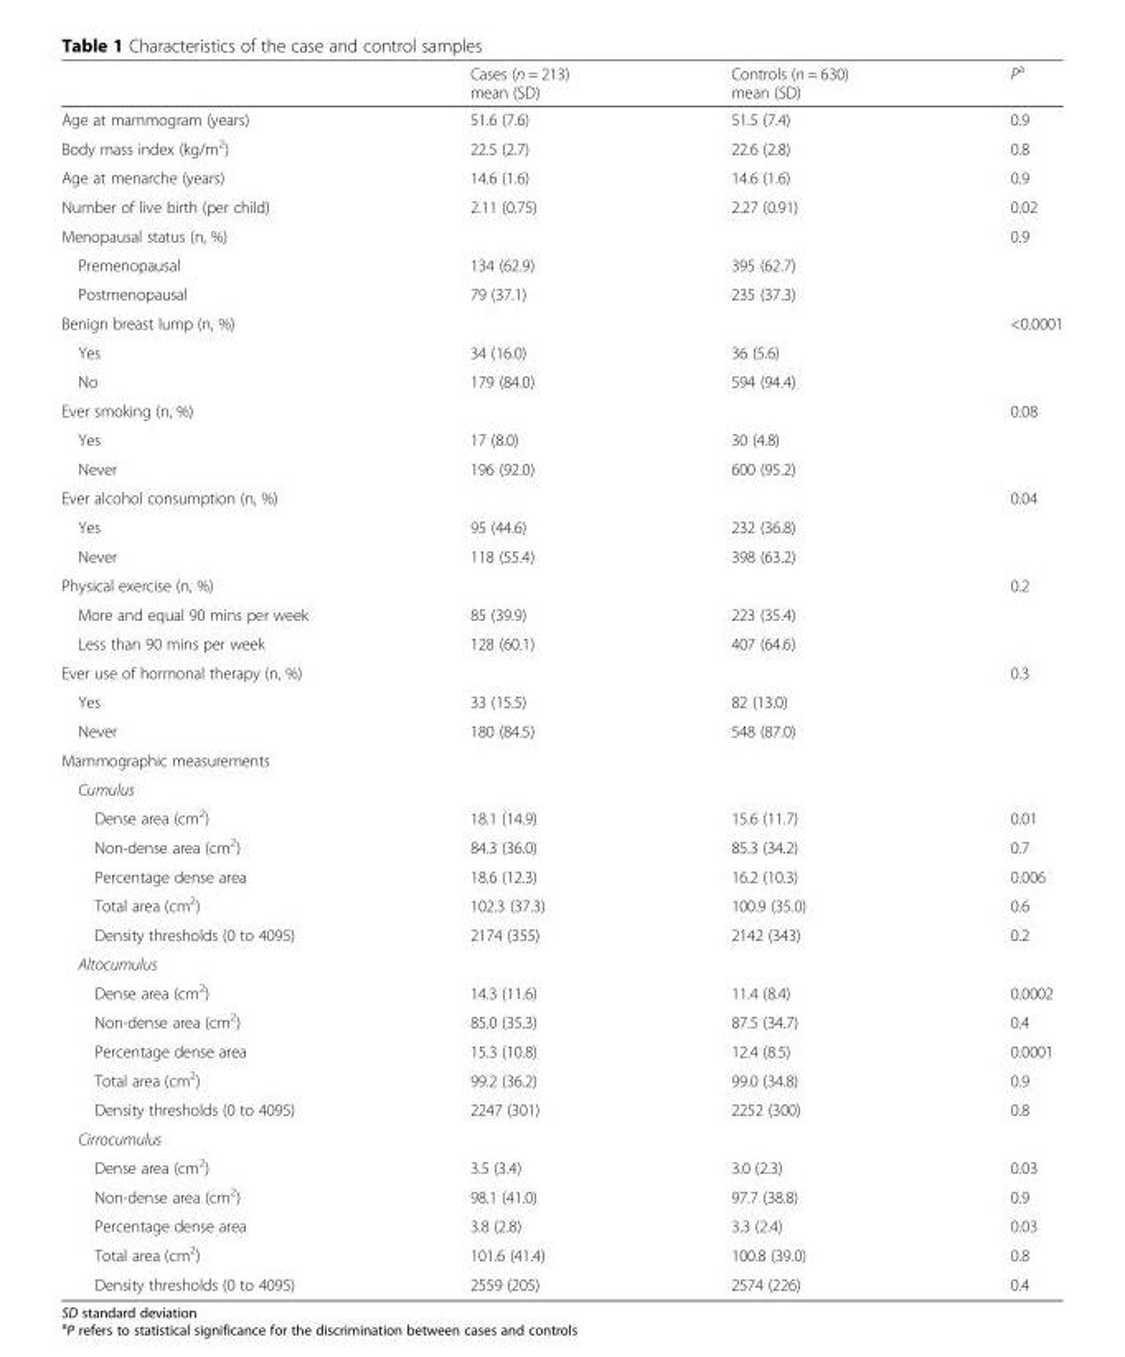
<table><thead><tr><td></td><td>Cases (n = 213) mean (SD)</td><td>Controls (n = 630) mean (SD)</td><td>P<sup>a</sup></td></tr></thead><tbody><tr><td>Age at mammogram (years)</td><td>51.6 (7.6)</td><td>51.5 (7.4)</td><td>0.9</td></tr><tr><td>Body mass index (kg/m<sup>2</sup>)</td><td>22.5 (2.7)</td><td>22.6 (2.8)</td><td>0.8</td></tr><tr><td>Age at menarche (years)</td><td>14.6 (1.6)</td><td>14.6 (1.6)</td><td>0.9</td></tr><tr><td>Number of live birth (per child)</td><td>2.11 (0.75)</td><td>2.27 (0.91)</td><td>0.02</td></tr><tr><td>Menopausal status (n, %)</td><td></td><td></td><td>0.9</td></tr><tr><td>Premenopausal</td><td>134 (62.9)</td><td>395 (62.7)</td><td></td></tr><tr><td>Postmenopausal</td><td>79 (37.1)</td><td>235 (37.3)</td><td></td></tr><tr><td>Benign breast lump (n, %)</td><td></td><td></td><td>&lt;0.0001</td></tr><tr><td>Yes</td><td>34 (16.0)</td><td>36 (5.6)</td><td></td></tr><tr><td>No</td><td>179 (84.0)</td><td>594 (94.4)</td><td></td></tr><tr><td>Ever smoking (n, %)</td><td></td><td></td><td>0.08</td></tr><tr><td>Yes</td><td>17 (8.0)</td><td>30 (4.8)</td><td></td></tr><tr><td>Never</td><td>196 (92.0)</td><td>600 (95.2)</td><td></td></tr><tr><td>Ever alcohol consumption (n, %)</td><td></td><td></td><td>0.04</td></tr><tr><td>Yes</td><td>95 (44.6)</td><td>232 (36.8)</td><td></td></tr><tr><td>Never</td><td>118 (55.4)</td><td>398 (63.2)</td><td></td></tr><tr><td>Physical exercise (n, %)</td><td></td><td></td><td>0.2</td></tr><tr><td>More and equal 90 mins per week</td><td>85 (39.9)</td><td>223 (35.4)</td><td></td></tr><tr><td>Less than 90 mins per week</td><td>128 (60.1)</td><td>407 (64.6)</td><td></td></tr><tr><td>Ever use of hormonal therapy (n, %)</td><td></td><td></td><td>0.3</td></tr><tr><td>Yes</td><td>33 (15.5)</td><td>82 (13.0)</td><td></td></tr><tr><td>Never</td><td>180 (84.5)</td><td>548 (87.0)</td><td></td></tr><tr><td colspan="4">Mammographic measurements</td></tr><tr><td colspan="4">Cumulus</td></tr><tr><td>Dense area (cm<sup>2</sup>)</td><td>18.1 (14.9)</td><td>15.6 (11.7)</td><td>0.01</td></tr><tr><td>Non-dense area (cm<sup>2</sup>)</td><td>84.3 (36.0)</td><td>85.3 (34.2)</td><td>0.7</td></tr><tr><td>Percentage dense area</td><td>18.6 (12.3)</td><td>16.2 (10.3)</td><td>0.006</td></tr><tr><td>Total area (cm<sup>2</sup>)</td><td>102.3 (37.3)</td><td>100.9 (35.0)</td><td>0.6</td></tr><tr><td>Density thresholds (0 to 4095)</td><td>2174 (355)</td><td>2142 (343)</td><td>0.2</td></tr><tr><td colspan="4">Altocumulus</td></tr><tr><td>Dense area (cm<sup>2</sup>)</td><td>14.3 (11.6)</td><td>11.4 (8.4)</td><td>0.0002</td></tr><tr><td>Non-dense area (cm<sup>2</sup>)</td><td>85.0 (35.3)</td><td>87.5 (34.7)</td><td>0.4</td></tr><tr><td>Percentage dense area</td><td>15.3 (10.8)</td><td>12.4 (8.5)</td><td>0.0001</td></tr><tr><td>Total area (cm<sup>2</sup>)</td><td>99.2 (36.2)</td><td>99.0 (34.8)</td><td>0.9</td></tr><tr><td>Density thresholds (0 to 4095)</td><td>2247 (301)</td><td>2252 (300)</td><td>0.8</td></tr><tr><td colspan="4">Cirrocumulus</td></tr><tr><td>Dense area (cm<sup>2</sup>)</td><td>3.5 (3.4)</td><td>3.0 (2.3)</td><td>0.03</td></tr><tr><td>Non-dense area (cm<sup>2</sup>)</td><td>98.1 (41.0)</td><td>97.7 (38.8)</td><td>0.9</td></tr><tr><td>Percentage dense area</td><td>3.8 (2.8)</td><td>3.3 (2.4)</td><td>0.03</td></tr><tr><td>Total area (cm<sup>2</sup>)</td><td>101.6 (41.4)</td><td>100.8 (39.0)</td><td>0.8</td></tr><tr><td>Density thresholds (0 to 4095)</td><td>2559 (205)</td><td>2574 (226)</td><td>0.4</td></tr></tbody></table>